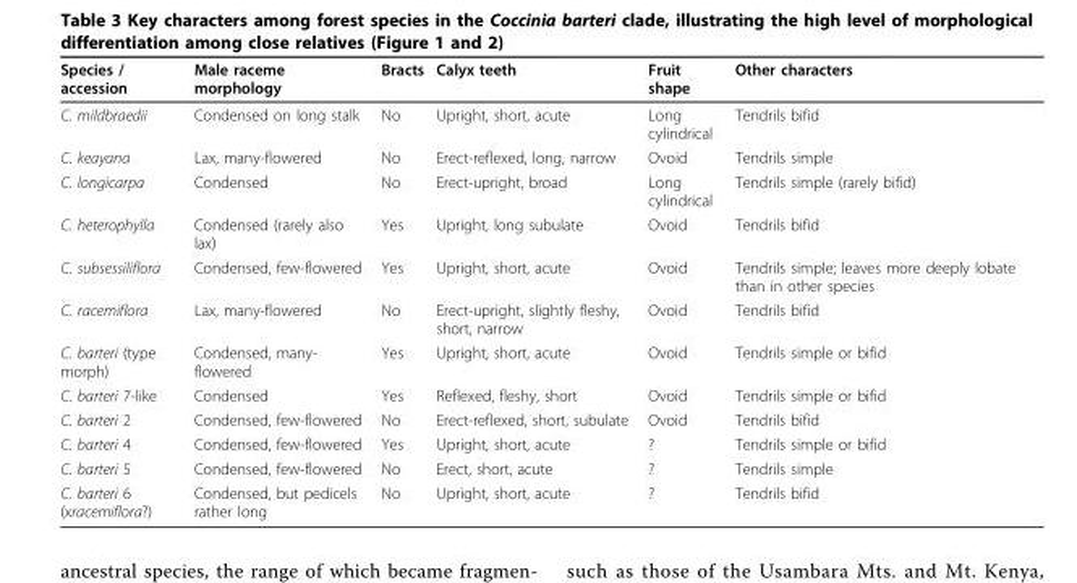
<table><thead><tr><td>Species / accession</td><td>Male raceme morphology</td><td>Bracts</td><td>Calyx teeth</td><td>Fruit shape</td><td>Other characters</td></tr></thead><tbody><tr><td>C. mildbraedii</td><td>Condensed on long stalk</td><td>No</td><td>Upright, short, acute</td><td>Long cylindrical</td><td>Tendrils bifid</td></tr><tr><td>C. keayana</td><td>Lax, many-flowered</td><td>No</td><td>Erect-reflexed, long, narrow</td><td>Ovoid</td><td>Tendrils simple</td></tr><tr><td>C. longicarpa</td><td>Condensed</td><td>No</td><td>Erect-upright, broad</td><td>Long cylindrical</td><td>Tendrils simple (rarely bifid)</td></tr><tr><td>C. heterophylla</td><td>Condensed (rarely also lax)</td><td>Yes</td><td>Upright, long subulate</td><td>Ovoid</td><td>Tendrils bifid</td></tr><tr><td>C. subsessiliflora</td><td>Condensed, few-flowered</td><td>Yes</td><td>Upright, short, acute</td><td>Ovoid</td><td>Tendrils simple; leaves more deeply lobate than in other species</td></tr><tr><td>C. racemiflora</td><td>Lax, many-flowered</td><td>No</td><td>Erect-upright, slightly fleshy, short, narrow</td><td>Ovoid</td><td>Tendrils bifid</td></tr><tr><td>C. barteri (type morph)</td><td>Condensed, many- flowered</td><td>Yes</td><td>Upright, short, acute</td><td>Ovoid</td><td>Tendrils simple or bifid</td></tr><tr><td>C. barteri 7-like</td><td>Condensed</td><td>Yes</td><td>Reflexed, fleshy, short</td><td>Ovoid</td><td>Tendrils simple or bifid</td></tr><tr><td>C. barteri 2</td><td>Condensed, few-flowered</td><td>No</td><td>Erect-reflexed, short, subulate</td><td>Ovoid</td><td>Tendrils bifid</td></tr><tr><td>C. barteri 4</td><td>Condensed, few-flowered</td><td>Yes</td><td>Upright, short, acute</td><td>?</td><td>Tendrils simple or bifid</td></tr><tr><td>C. barteri 5</td><td>Condensed, few-flowered</td><td>No</td><td>Erect, short, acute</td><td>?</td><td>Tendrils simple</td></tr><tr><td>C. barteri 6 (xracemiflora?)</td><td>Condensed, but pedicels rather long</td><td>No</td><td>Upright, short, acute</td><td>?</td><td>Tendrils bifid</td></tr></tbody></table>